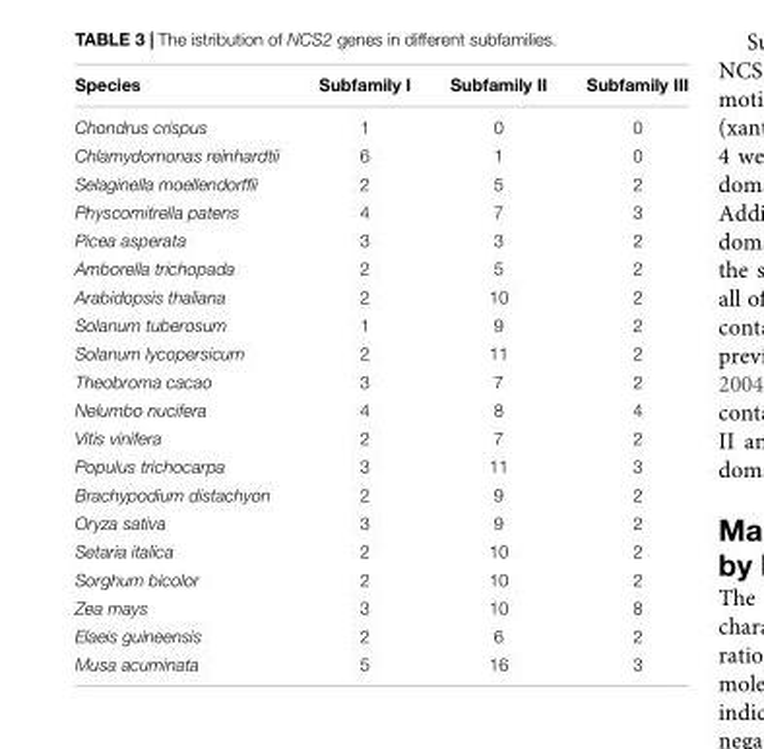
<table><thead><tr><td>Species</td><td>Subfamily I</td><td>Subfamily II</td><td>Subfamily III</td></tr></thead><tbody><tr><td>Chondrus crispus</td><td>1</td><td>0</td><td>0</td></tr><tr><td>Chlamydomonas reinhardtii</td><td>6</td><td>1</td><td>0</td></tr><tr><td>Selaginella moellendorffii</td><td>2</td><td>5</td><td>2</td></tr><tr><td>Physcomitrella patens</td><td>4</td><td>7</td><td>3</td></tr><tr><td>Picea asperata</td><td>3</td><td>3</td><td>2</td></tr><tr><td>Amborella trichopada</td><td>2</td><td>5</td><td>2</td></tr><tr><td>Arabidopsis thaliana</td><td>2</td><td>10</td><td>2</td></tr><tr><td>Solanum tuberosum</td><td>1</td><td>9</td><td>2</td></tr><tr><td>Solanum lycopersicum</td><td>2</td><td>11</td><td>2</td></tr><tr><td>Theobroma cacao</td><td>3</td><td>7</td><td>2</td></tr><tr><td>Nelumbo nucifera</td><td>4</td><td>8</td><td>4</td></tr><tr><td>Vitis vinifera</td><td>2</td><td>7</td><td>2</td></tr><tr><td>Populus trichocarpa</td><td>3</td><td>11</td><td>3</td></tr><tr><td>Brachypodium distachyon</td><td>2</td><td>9</td><td>2</td></tr><tr><td>Oryza sativa</td><td>3</td><td>9</td><td>2</td></tr><tr><td>Setaria italica</td><td>2</td><td>10</td><td>2</td></tr><tr><td>Sorghum bicolor</td><td>2</td><td>10</td><td>2</td></tr><tr><td>Zea mays</td><td>3</td><td>10</td><td>8</td></tr><tr><td>Elaeis guineensis</td><td>2</td><td>6</td><td>2</td></tr><tr><td>Musa acuminata</td><td>5</td><td>16</td><td>3</td></tr></tbody></table>